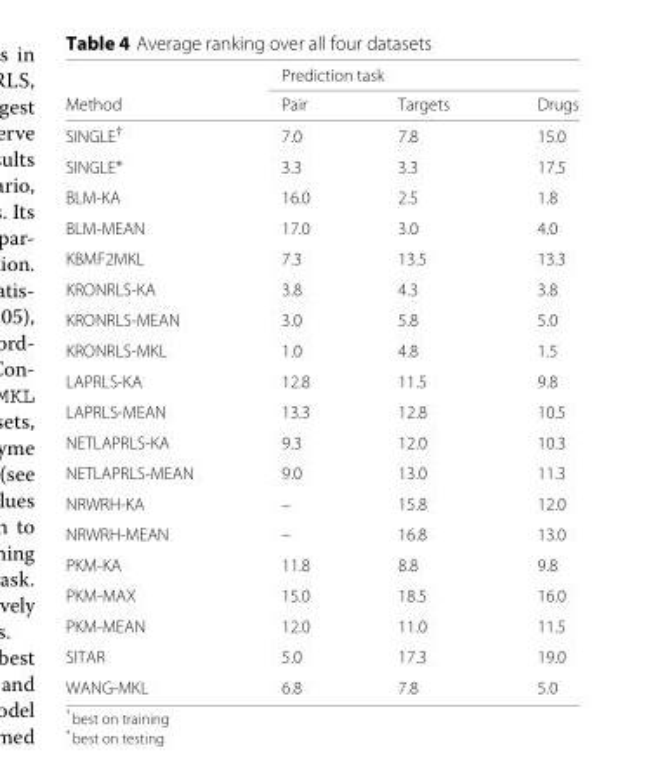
<table><thead><tr><td rowspan="2">Method</td><td colspan="3">Prediction task</td></tr><tr><td>Pair</td><td>Targets</td><td>Drugs</td></tr></thead><tbody><tr><td>SINGLE<sup>†</sup></td><td>7.0</td><td>7.8</td><td>15.0</td></tr><tr><td>SINGLE∗</td><td>3.3</td><td>3.3</td><td>17.5</td></tr><tr><td>BLM-KA</td><td>16.0</td><td>2.5</td><td>1.8</td></tr><tr><td>BLM-MEAN</td><td>17.0</td><td>3.0</td><td>4.0</td></tr><tr><td>KBMF2MKL</td><td>7.3</td><td>13.5</td><td>13.3</td></tr><tr><td>KRONRLS-KA</td><td>3.8</td><td>4.3</td><td>3.8</td></tr><tr><td>KRONRLS-MEAN</td><td>3.0</td><td>5.8</td><td>5.0</td></tr><tr><td>KRONRLS-MKL</td><td>1.0</td><td>4.8</td><td>1.5</td></tr><tr><td>LAPRLS-KA</td><td>12.8</td><td>11.5</td><td>9.8</td></tr><tr><td>LAPRLS-MEAN</td><td>13.3</td><td>12.8</td><td>10.5</td></tr><tr><td>NETLAPRLS-KA</td><td>9.3</td><td>12.0</td><td>10.3</td></tr><tr><td>NETLAPRLS-MEAN</td><td>9.0</td><td>13.0</td><td>11.3</td></tr><tr><td>NRWRH-KA</td><td>–</td><td>15.8</td><td>12.0</td></tr><tr><td>NRWRH-MEAN</td><td>–</td><td>16.8</td><td>13.0</td></tr><tr><td>PKM-KA</td><td>11.8</td><td>8.8</td><td>9.8</td></tr><tr><td>PKM-MAX</td><td>15.0</td><td>18.5</td><td>16.0</td></tr><tr><td>PKM-MEAN</td><td>12.0</td><td>11.0</td><td>11.5</td></tr><tr><td>SITAR</td><td>5.0</td><td>17.3</td><td>19.0</td></tr><tr><td>WANG-MKL</td><td>6.8</td><td>7.8</td><td>5.0</td></tr></tbody></table>